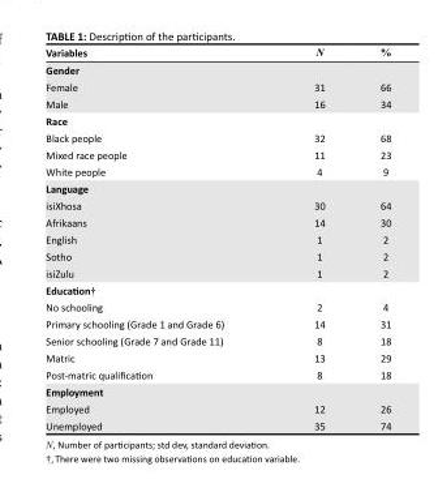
<table><thead><tr><td>Variables</td><td>N</td><td>%</td></tr></thead><tbody><tr><td colspan="3">Gender</td></tr><tr><td>Female</td><td>31</td><td>66</td></tr><tr><td>Male</td><td>16</td><td>34</td></tr><tr><td colspan="3">Race</td></tr><tr><td>Black people</td><td>32</td><td>68</td></tr><tr><td>Mixed race people</td><td>11</td><td>23</td></tr><tr><td>White people</td><td>4</td><td>9</td></tr><tr><td colspan="3">Language</td></tr><tr><td>isiXhosa</td><td>30</td><td>64</td></tr><tr><td>Afrikaans</td><td>14</td><td>30</td></tr><tr><td>English</td><td>1</td><td>2</td></tr><tr><td>Sotho</td><td>1</td><td>2</td></tr><tr><td>isiZulu</td><td>1</td><td>2</td></tr><tr><td colspan="3">Education†</td></tr><tr><td>No schooling</td><td>2</td><td>4</td></tr><tr><td>Primary schooling (Grade 1 and Grade 6)</td><td>14</td><td>31</td></tr><tr><td>Senior schooling (Grade 7 and Grade 11)</td><td>8</td><td>18</td></tr><tr><td>Matric</td><td>13</td><td>29</td></tr><tr><td>Post-matric qualification</td><td>8</td><td>18</td></tr><tr><td colspan="3">Employment</td></tr><tr><td>Employed</td><td>12</td><td>26</td></tr><tr><td>Unemployed</td><td>35</td><td>74</td></tr></tbody></table>